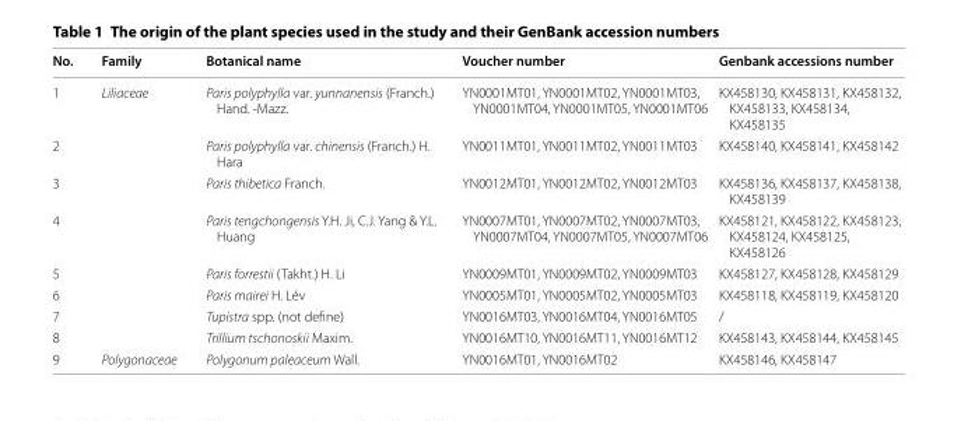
<table><thead><tr><td>No.</td><td>Family</td><td>Botanical name</td><td>Voucher number</td><td>Genbank accessions number</td></tr></thead><tbody><tr><td>1</td><td>Liliaceae</td><td>Paris polyphylla var. yunnanensis (Franch.) Hand. ‑Mazz.</td><td>YN0001MT01, YN0001MT02, YN0001MT03, YN0001MT04, YN0001MT05, YN0001MT06</td><td>KX458130, KX458131, KX458132, KX458133, KX458134, KX458135</td></tr><tr><td>2</td><td></td><td>Paris polyphylla var. chinensis (Franch.) H. Hara</td><td>YN0011MT01, YN0011MT02, YN0011MT03</td><td>KX458140, KX458141, KX458142</td></tr><tr><td>3</td><td></td><td>Paris thibetica Franch.</td><td>YN0012MT01, YN0012MT02, YN0012MT03</td><td>KX458136, KX458137, KX458138, KX458139</td></tr><tr><td>4</td><td></td><td>Paris tengchongensis Y.H. Ji, C.J. Yang &amp; Y.L. Huang</td><td>YN0007MT01, YN0007MT02, YN0007MT03, YN0007MT04, YN0007MT05, YN0007MT06</td><td>KX458121, KX458122, KX458123, KX458124, KX458125, KX458126</td></tr><tr><td>5</td><td></td><td>Paris forrestii (Takht.) H. Li</td><td>YN0009MT01, YN0009MT02, YN0009MT03</td><td>KX458127, KX458128, KX458129</td></tr><tr><td>6</td><td></td><td>Paris mairei H. Lév</td><td>YN0005MT01, YN0005MT02, YN0005MT03</td><td>KX458118, KX458119, KX458120</td></tr><tr><td>7</td><td></td><td>Tupistra spp. (not define)</td><td>YN0016MT03, YN0016MT04, YN0016MT05</td><td>/</td></tr><tr><td>8</td><td></td><td>Trillium tschonoskii Maxim.</td><td>YN0016MT10, YN0016MT11, YN0016MT12</td><td>KX458143, KX458144, KX458145</td></tr><tr><td>9</td><td>Polygonaceae</td><td>Polygonum paleaceum Wall.</td><td>YN0016MT01, YN0016MT02</td><td>KX458146, KX458147</td></tr></tbody></table>